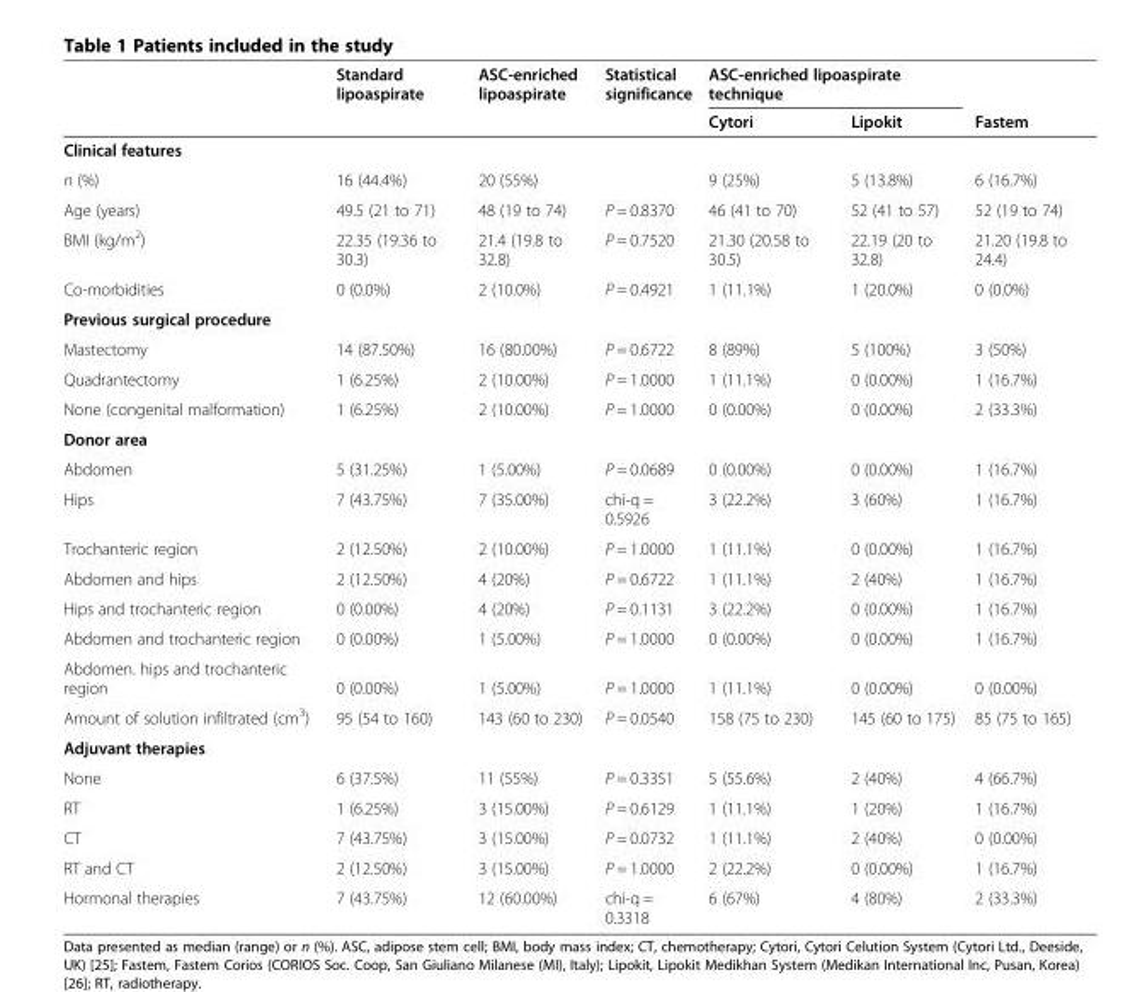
<table><thead><tr><td rowspan="2"></td><td rowspan="2">Standard lipoaspirate</td><td rowspan="2">ASC-enriched lipoaspirate</td><td rowspan="2">Statistical significance</td><td colspan="2">ASC-enriched lipoaspirate technique</td><td rowspan="2">Fastem</td></tr><tr><td>Cytori</td><td>Lipokit</td></tr></thead><tbody><tr><td colspan="7">Clinical features</td></tr><tr><td>n (%)</td><td>16 (44.4%)</td><td>20 (55%)</td><td></td><td>9 (25%)</td><td>5 (13.8%)</td><td>6 (16.7%)</td></tr><tr><td>Age (years)</td><td>49.5 (21 to 71)</td><td>48 (19 to 74)</td><td>P = 0.8370</td><td>46 (41 to 70)</td><td>52 (41 to 57)</td><td>52 (19 to 74)</td></tr><tr><td>BMI (kg/m<sup>2</sup>)</td><td>22.35 (19.36 to 30.3)</td><td>21.4 (19.8 to 32.8)</td><td>P = 0.7520</td><td>21.30 (20.58 to 30.5)</td><td>22.19 (20 to 32.8)</td><td>21.20 (19.8 to 24.4)</td></tr><tr><td>Co-morbidities</td><td>0 (0.0%)</td><td>2 (10.0%)</td><td>P = 0.4921</td><td>1 (11.1%)</td><td>1 (20.0%)</td><td>0 (0.0%)</td></tr><tr><td colspan="7">Previous surgical procedure</td></tr><tr><td>Mastectomy</td><td>14 (87.50%)</td><td>16 (80.00%)</td><td>P = 0.6722</td><td>8 (89%)</td><td>5 (100%)</td><td>3 (50%)</td></tr><tr><td>Quadrantectomy</td><td>1 (6.25%)</td><td>2 (10.00%)</td><td>P = 1.0000</td><td>1 (11.1%)</td><td>0 (0.00%)</td><td>1 (16.7%)</td></tr><tr><td>None (congenital malformation)</td><td>1 (6.25%)</td><td>2 (10.00%)</td><td>P = 1.0000</td><td>0 (0.00%)</td><td>0 (0.00%)</td><td>2 (33.3%)</td></tr><tr><td colspan="7">Donor area</td></tr><tr><td>Abdomen</td><td>5 (31.25%)</td><td>1 (5.00%)</td><td>P = 0.0689</td><td>0 (0.00%)</td><td>0 (0.00%)</td><td>1 (16.7%)</td></tr><tr><td>Hips</td><td>7 (43.75%)</td><td>7 (35.00%)</td><td>chi-q = 0.5926</td><td>3 (22.2%)</td><td>3 (60%)</td><td>1 (16.7%)</td></tr><tr><td>Trochanteric region</td><td>2 (12.50%)</td><td>2 (10.00%)</td><td>P = 1.0000</td><td>1 (11.1%)</td><td>0 (0.00%)</td><td>1 (16.7%)</td></tr><tr><td>Abdomen and hips</td><td>2 (12.50%)</td><td>4 (20%)</td><td>P = 0.6722</td><td>1 (11.1%)</td><td>2 (40%)</td><td>1 (16.7%)</td></tr><tr><td>Hips and trochanteric region</td><td>0 (0.00%)</td><td>4 (20%)</td><td>P = 0.1131</td><td>3 (22.2%)</td><td>0 (0.00%)</td><td>1 (16.7%)</td></tr><tr><td>Abdomen and trochanteric region</td><td>0 (0.00%)</td><td>1 (5.00%)</td><td>P = 1.0000</td><td>0 (0.00%)</td><td>0 (0.00%)</td><td>1 (16.7%)</td></tr><tr><td>Abdomen. hips and trochanteric region</td><td>0 (0.00%)</td><td>1 (5.00%)</td><td>P = 1.0000</td><td>1 (11.1%)</td><td>0 (0.00%)</td><td>0 (0.00%)</td></tr><tr><td>Amount of solution infiltrated (cm<sup>3</sup>)</td><td>95 (54 to 160)</td><td>143 (60 to 230)</td><td>P = 0.0540</td><td>158 (75 to 230)</td><td>145 (60 to 175)</td><td>85 (75 to 165)</td></tr><tr><td colspan="7">Adjuvant therapies</td></tr><tr><td>None</td><td>6 (37.5%)</td><td>11 (55%)</td><td>P = 0.3351</td><td>5 (55.6%)</td><td>2 (40%)</td><td>4 (66.7%)</td></tr><tr><td>RT</td><td>1 (6.25%)</td><td>3 (15.00%)</td><td>P = 0.6129</td><td>1 (11.1%)</td><td>1 (20%)</td><td>1 (16.7%)</td></tr><tr><td>CT</td><td>7 (43.75%)</td><td>3 (15.00%)</td><td>P = 0.0732</td><td>1 (11.1%)</td><td>2 (40%)</td><td>0 (0.00%)</td></tr><tr><td>RT and CT</td><td>2 (12.50%)</td><td>3 (15.00%)</td><td>P = 1.0000</td><td>2 (22.2%)</td><td>0 (0.00%)</td><td>1 (16.7%)</td></tr><tr><td>Hormonal therapies</td><td>7 (43.75%)</td><td>12 (60.00%)</td><td>chi-q = 0.3318</td><td>6 (67%)</td><td>4 (80%)</td><td>2 (33.3%)</td></tr></tbody></table>